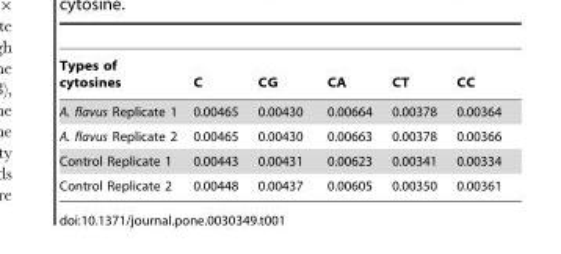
<table><thead><tr><td>Types of cytosines</td><td>C</td><td>CG</td><td>CA</td><td>CT</td><td>CC</td></tr></thead><tbody><tr><td>A. flavus Replicate 1</td><td>0.00465</td><td>0.00430</td><td>0.00664</td><td>0.00378</td><td>0.00364</td></tr><tr><td>A. flavus Replicate 2</td><td>0.00465</td><td>0.00430</td><td>0.00663</td><td>0.00378</td><td>0.00366</td></tr><tr><td>Control Replicate 1</td><td>0.00443</td><td>0.00431</td><td>0.00623</td><td>0.00341</td><td>0.00334</td></tr><tr><td>Control Replicate 2</td><td>0.00448</td><td>0.00437</td><td>0.00605</td><td>0.00350</td><td>0.00361</td></tr></tbody></table>